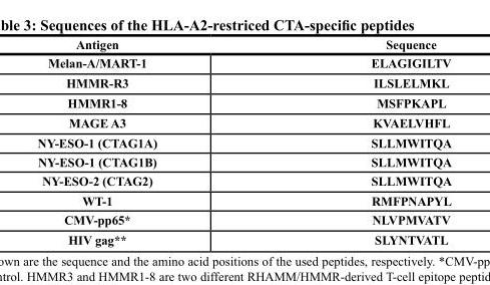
<table><thead><tr><td>Antigen</td><td>Sequence</td></tr></thead><tbody><tr><td>Melan-A/MART-1</td><td>ELAGIGILTV</td></tr><tr><td>HMMR-R3</td><td>ILSLELMKL</td></tr><tr><td>HMMR1-8</td><td>MSFPKAPL</td></tr><tr><td>MAGE A3</td><td>KVAELVHFL</td></tr><tr><td>NY-ESO-1 (CTAG1A)</td><td>SLLMWITQA</td></tr><tr><td>NY-ESO-1 (CTAG1B)</td><td>SLLMWITQA</td></tr><tr><td>NY-ESO-2 (CTAG2)</td><td>SLLMWITQA</td></tr><tr><td>WT-1</td><td>RMFPNAPYL</td></tr><tr><td>CMV-pp65*</td><td>NLVPMVATV</td></tr><tr><td>HIV gag**</td><td>SLYNTVATL</td></tr></tbody></table>